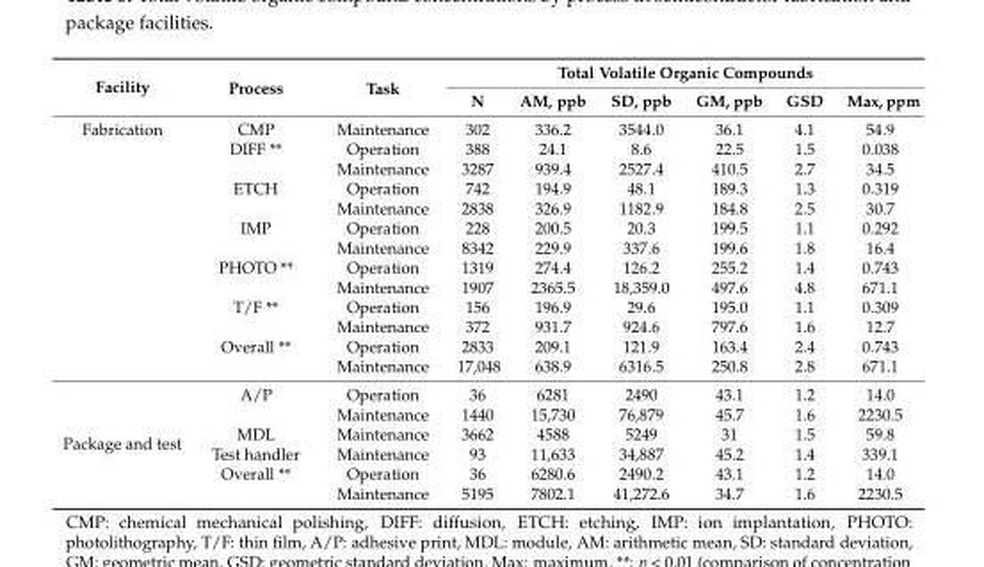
<table><thead><tr><td rowspan="2">Facility</td><td rowspan="2">Process</td><td rowspan="2">Task</td><td colspan="6">Total Volatile Organic Compounds</td></tr><tr><td>N</td><td>AM, ppb</td><td>SD, ppb</td><td>GM, ppb</td><td>GSD</td><td>Max, ppm</td></tr></thead><tbody><tr><td rowspan="13">Fabrication</td><td>CMP</td><td>Maintenance</td><td>302</td><td>336.2</td><td>3544.0</td><td>36.1</td><td>4.1</td><td>54.9</td></tr><tr><td>DIFF **</td><td>Operation</td><td>388</td><td>24.1</td><td>8.6</td><td>22.5</td><td>1.5</td><td>0.038</td></tr><tr><td></td><td>Maintenance</td><td>3287</td><td>939.4</td><td>2527.4</td><td>410.5</td><td>2.7</td><td>34.5</td></tr><tr><td>ETCH</td><td>Operation</td><td>742</td><td>194.9</td><td>48.1</td><td>189.3</td><td>1.3</td><td>0.319</td></tr><tr><td></td><td>Maintenance</td><td>2838</td><td>326.9</td><td>1182.9</td><td>184.8</td><td>2.5</td><td>30.7</td></tr><tr><td>IMP</td><td>Operation</td><td>228</td><td>200.5</td><td>20.3</td><td>199.5</td><td>1.1</td><td>0.292</td></tr><tr><td></td><td>Maintenance</td><td>8342</td><td>229.9</td><td>337.6</td><td>199.6</td><td>1.8</td><td>16.4</td></tr><tr><td>PHOTO **</td><td>Operation</td><td>1319</td><td>274.4</td><td>126.2</td><td>255.2</td><td>1.4</td><td>0.743</td></tr><tr><td></td><td>Maintenance</td><td>1907</td><td>2365.5</td><td>18,359.0</td><td>497.6</td><td>4.8</td><td>671.1</td></tr><tr><td>T/F **</td><td>Operation</td><td>156</td><td>196.9</td><td>29.6</td><td>195.0</td><td>1.1</td><td>0.309</td></tr><tr><td></td><td>Maintenance</td><td>372</td><td>931.7</td><td>924.6</td><td>797.6</td><td>1.6</td><td>12.7</td></tr><tr><td>Overall **</td><td>Operation</td><td>2833</td><td>209.1</td><td>121.9</td><td>163.4</td><td>2.4</td><td>0.743</td></tr><tr><td></td><td>Maintenance</td><td>17,048</td><td>638.9</td><td>6316.5</td><td>250.8</td><td>2.8</td><td>671.1</td></tr><tr><td rowspan="6">Package and test</td><td>A/P</td><td>Operation</td><td>36</td><td>6281</td><td>2490</td><td>43.1</td><td>1.2</td><td>14.0</td></tr><tr><td></td><td>Maintenance</td><td>1440</td><td>15,730</td><td>76,879</td><td>45.7</td><td>1.6</td><td>2230.5</td></tr><tr><td>MDL</td><td>Maintenance</td><td>3662</td><td>4588</td><td>5249</td><td>31</td><td>1.5</td><td>59.8</td></tr><tr><td>Test handler</td><td>Maintenance</td><td>93</td><td>11,633</td><td>34,887</td><td>45.2</td><td>1.4</td><td>339.1</td></tr><tr><td>Overall **</td><td>Operation</td><td>36</td><td>6280.6</td><td>2490.2</td><td>43.1</td><td>1.2</td><td>14.0</td></tr><tr><td></td><td>Maintenance</td><td>5195</td><td>7802.1</td><td>41,272.6</td><td>34.7</td><td>1.6</td><td>2230.5</td></tr></tbody></table>